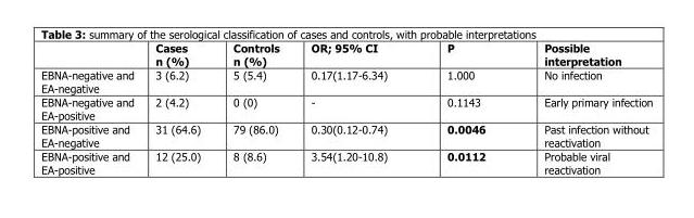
<table><thead><tr><td></td><td>Cases n (%)</td><td>Controls n (%)</td><td>OR; 95% CI</td><td>P</td><td>Possible interpretation</td></tr></thead><tbody><tr><td>EBNA-negative and EA-negative</td><td>3 (6.2)</td><td>5 (5.4)</td><td>0.17(1.17-6.34)</td><td>1.000</td><td>No infection</td></tr><tr><td>EBNA-negative and EA-positive</td><td>2 (4.2)</td><td>0 (0)</td><td>-</td><td>0.1143</td><td>Early primary infection</td></tr><tr><td>EBNA-positive and EA-negative</td><td>31 (64.6)</td><td>79 (86.0)</td><td>0.30(0.12-0.74)</td><td>0.0046</td><td>Past infection without reactivation</td></tr><tr><td>EBNA-positive and EA-positive</td><td>12 (25.0)</td><td>8 (8.6)</td><td>3.54(1.20-10.8)</td><td>0.0112</td><td>Probable viral reactivation</td></tr></tbody></table>